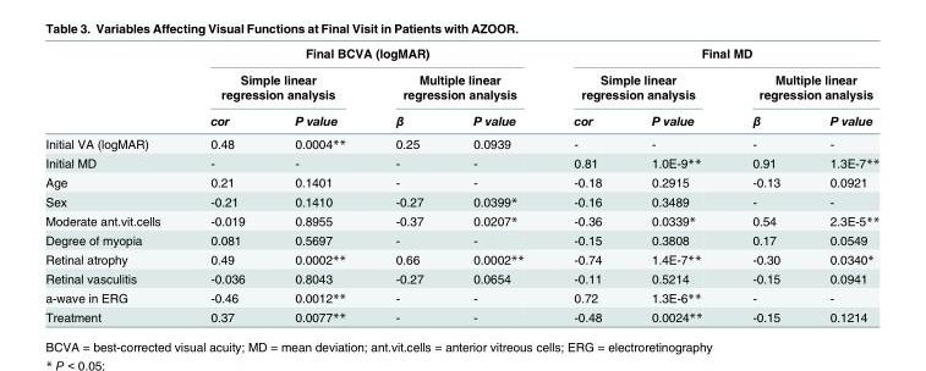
<table><thead><tr><td rowspan="3"></td><td colspan="4">Final BCVA (logMAR)</td><td colspan="4">Final MD</td></tr><tr><td colspan="2">Simple linear regression analysis</td><td colspan="2">Multiple linear regression analysis</td><td colspan="2">Simple linear regression analysis</td><td colspan="2">Multiple linear regression analysis</td></tr><tr><td>cor</td><td>P value</td><td>β</td><td>P value</td><td>cor</td><td>P value</td><td>β</td><td>P value</td></tr></thead><tbody><tr><td>Initial VA (logMAR)</td><td>0.48</td><td>0.0004**</td><td>0.25</td><td>0.0939</td><td>-</td><td>-</td><td>-</td><td>-</td></tr><tr><td>Initial MD</td><td>-</td><td>-</td><td>-</td><td>-</td><td>0.81</td><td>1.0E-9**</td><td>0.91</td><td>1.3E-7**</td></tr><tr><td>Age</td><td>0.21</td><td>0.1401</td><td>-</td><td>-</td><td>-0.18</td><td>0.2915</td><td>-0.13</td><td>0.0921</td></tr><tr><td>Sex</td><td>-0.21</td><td>0.1410</td><td>-0.27</td><td>0.0399*</td><td>-0.16</td><td>0.3489</td><td>-</td><td>-</td></tr><tr><td>Moderate ant.vit.cells</td><td>-0.019</td><td>0.8955</td><td>-0.37</td><td>0.0207*</td><td>-0.36</td><td>0.0339*</td><td>0.54</td><td>2.3E-5**</td></tr><tr><td>Degree of myopia</td><td>0.081</td><td>0.5697</td><td>-</td><td>-</td><td>-0.15</td><td>0.3808</td><td>0.17</td><td>0.0549</td></tr><tr><td>Retinal atrophy</td><td>0.49</td><td>0.0002**</td><td>0.66</td><td>0.0002**</td><td>-0.74</td><td>1.4E-7**</td><td>-0.30</td><td>0.0340*</td></tr><tr><td>Retinal vasculitis</td><td>-0.036</td><td>0.8043</td><td>-0.27</td><td>0.0654</td><td>-0.11</td><td>0.5214</td><td>-0.15</td><td>0.0941</td></tr><tr><td>a-wave in ERG</td><td>-0.46</td><td>0.0012**</td><td>-</td><td>-</td><td>0.72</td><td>1.3E-6**</td><td>-</td><td>-</td></tr><tr><td>Treatment</td><td>0.37</td><td>0.0077**</td><td>-</td><td>-</td><td>-0.48</td><td>0.0024**</td><td>-0.15</td><td>0.1214</td></tr></tbody></table>